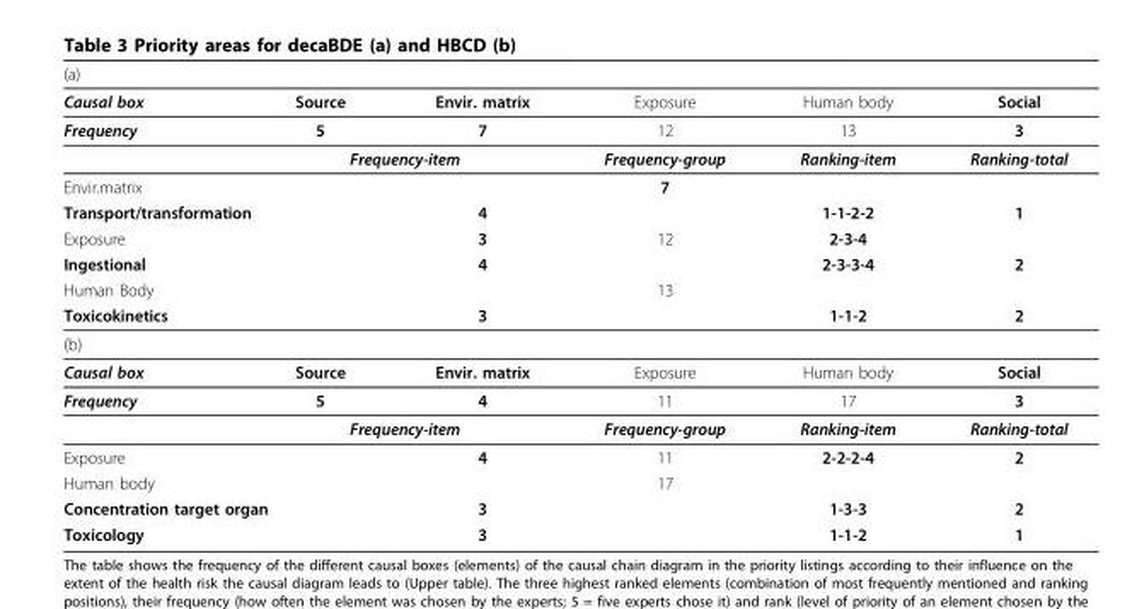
<table><thead><tr><td colspan="6">(a)</td></tr><tr><td>Causal box</td><td>Source</td><td>Envir. matrix</td><td>Exposure</td><td>Human body</td><td>Social</td></tr></thead><tbody><tr><td rowspan="2">Frequency</td><td>5</td><td>7</td><td>12</td><td>13</td><td>3</td></tr><tr><td colspan="2">Frequency-item</td><td>Frequency-group</td><td>Ranking-item</td><td>Ranking-total</td></tr><tr><td colspan="2">Envir.matrix</td><td></td><td>7</td><td></td><td></td></tr><tr><td colspan="2">Transport/transformation</td><td>4</td><td></td><td>1-1-2-2</td><td>1</td></tr><tr><td colspan="2">Exposure</td><td>3</td><td>12</td><td>2-3-4</td><td></td></tr><tr><td colspan="2">Ingestional</td><td>4</td><td></td><td>2-3-3-4</td><td>2</td></tr><tr><td colspan="2">Human Body</td><td></td><td>13</td><td></td><td></td></tr><tr><td colspan="2">Toxicokinetics</td><td>3</td><td></td><td>1-1-2</td><td>2</td></tr><tr><td colspan="6">(b)</td></tr><tr><td>Causal box</td><td>Source</td><td>Envir. matrix</td><td>Exposure</td><td>Human body</td><td>Social</td></tr><tr><td rowspan="2">Frequency</td><td>5</td><td>4</td><td>11</td><td>17</td><td>3</td></tr><tr><td colspan="2">Frequency-item</td><td>Frequency-group</td><td>Ranking-item</td><td>Ranking-total</td></tr><tr><td colspan="2">Exposure</td><td>4</td><td>11</td><td>2-2-2-4</td><td>2</td></tr><tr><td colspan="2">Human body</td><td></td><td>17</td><td></td><td></td></tr><tr><td colspan="2">Concentration target organ</td><td>3</td><td></td><td>1-3-3</td><td>2</td></tr><tr><td colspan="2">Toxicology</td><td>3</td><td></td><td>1-1-2</td><td>1</td></tr></tbody></table>